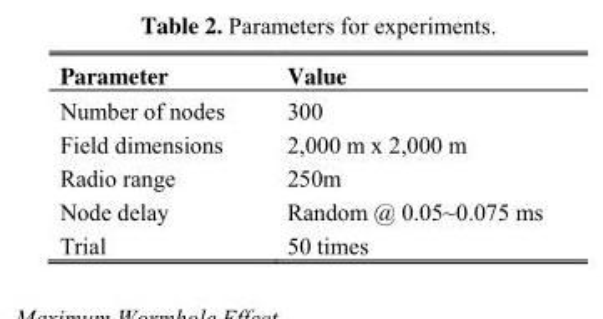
<table><thead><tr><td>Parameter</td><td>Value</td></tr></thead><tbody><tr><td>Number of nodes</td><td>300</td></tr><tr><td>Field dimensions</td><td>2,000 m x 2,000 m</td></tr><tr><td>Radio range</td><td>250m</td></tr><tr><td>Node delay</td><td>Random @ 0.05~0.075 ms</td></tr><tr><td>Trial</td><td>50 times</td></tr></tbody></table>